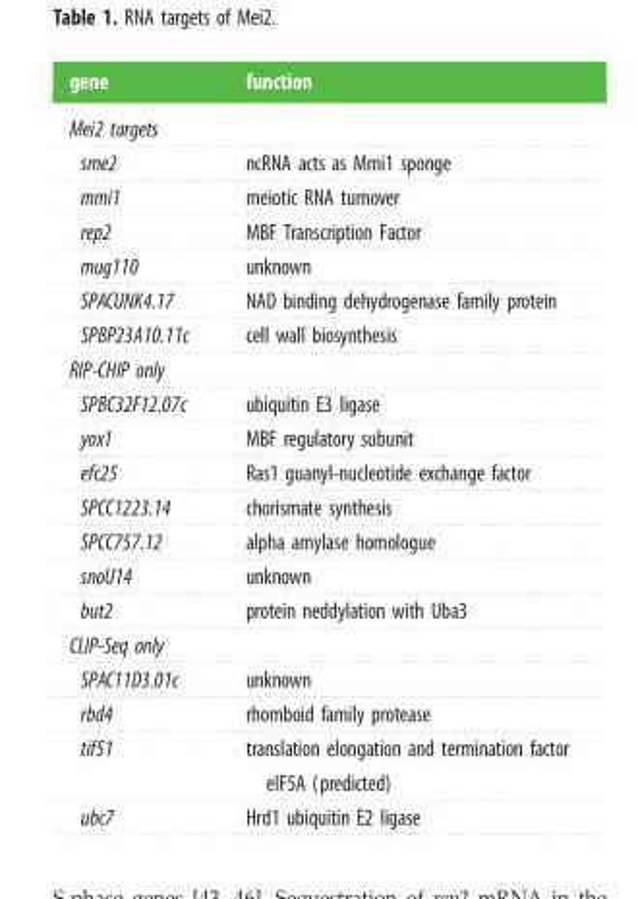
<table><thead><tr><td>gene</td><td>function</td></tr></thead><tbody><tr><td colspan="2">Mei2 targets</td></tr><tr><td>sme2</td><td>ncRNA acts as Mmi1 sponge</td></tr><tr><td>mmi1</td><td>meiotic RNA turnover</td></tr><tr><td>rep2</td><td>MBF Transcription Factor</td></tr><tr><td>mug110</td><td>unknown</td></tr><tr><td>SPACUNK4.17</td><td>NAD binding dehydrogenase family protein</td></tr><tr><td>SPBP23A10.11c</td><td>cell wall biosynthesis</td></tr><tr><td colspan="2">RIP-CHIP only</td></tr><tr><td>SPBC32F12.07c</td><td>ubiquitin E3 ligase</td></tr><tr><td>yox1</td><td>MBF regulatory subunit</td></tr><tr><td>efc25</td><td>Ras1 guanyl-nucleotide exchange factor</td></tr><tr><td>SPCC1223.14</td><td>chorismate synthesis</td></tr><tr><td>SPCC757.12</td><td>alpha amylase homologue</td></tr><tr><td>snoU14</td><td>unknown</td></tr><tr><td>but2</td><td>protein neddylation with Uba3</td></tr><tr><td colspan="2">CLIP-Seq only</td></tr><tr><td>SPAC11D3.01c</td><td>unknown</td></tr><tr><td>rbd4</td><td>rhomboid family protease</td></tr><tr><td>tif51</td><td>translation elongation and termination factor eIF5A (predicted)</td></tr><tr><td>ubc7</td><td>Hrd1 ubiquitin E2 ligase</td></tr></tbody></table>